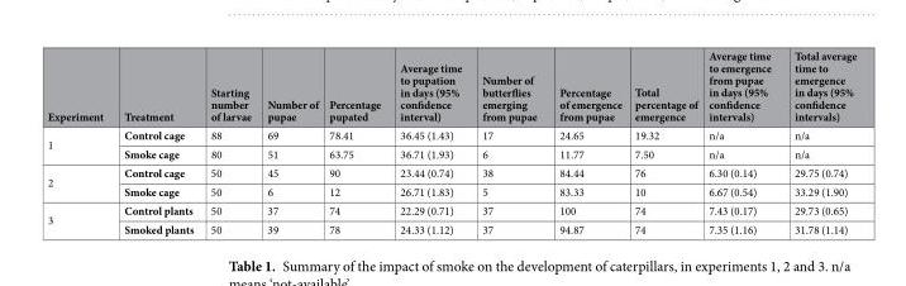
<table><thead><tr><td>Experiment</td><td>Treatment</td><td>Starting number of larvae</td><td>Number of pupae</td><td>Percentage pupated</td><td>Average time to pupation in days (95% confidence interval)</td><td>Number of butterflies emerging from pupae</td><td>Percentage of emergence from pupae</td><td>Total percentage of emergence</td><td>Average time to emergence from pupae in days (95% confidence intervals)</td><td>Total average time to emergence in days (95% confidence intervals)</td></tr></thead><tbody><tr><td rowspan="2">1</td><td>Control cage</td><td>88</td><td>69</td><td>78.41</td><td>36.45 (1.43)</td><td>17</td><td>24.65</td><td>19.32</td><td>n/a</td><td>n/a</td></tr><tr><td>Smoke cage</td><td>80</td><td>51</td><td>63.75</td><td>36.71 (1.93)</td><td>6</td><td>11.77</td><td>7.50</td><td>n/a</td><td>n/a</td></tr><tr><td rowspan="2">2</td><td>Control cage</td><td>50</td><td>45</td><td>90</td><td>23.44 (0.74)</td><td>38</td><td>84.44</td><td>76</td><td>6.30 (0.14)</td><td>29.75 (0.74)</td></tr><tr><td>Smoke cage</td><td>50</td><td>6</td><td>12</td><td>26.71 (1.83)</td><td>5</td><td>83.33</td><td>10</td><td>6.67 (0.54)</td><td>33.29 (1.90)</td></tr><tr><td rowspan="2">3</td><td>Control plants</td><td>50</td><td>37</td><td>74</td><td>22.29 (0.71)</td><td>37</td><td>100</td><td>74</td><td>7.43 (0.17)</td><td>29.73 (0.65)</td></tr><tr><td>Smoked plants</td><td>50</td><td>39</td><td>78</td><td>24.33 (1.12)</td><td>37</td><td>94.87</td><td>74</td><td>7.35 (1.16)</td><td>31.78 (1.14)</td></tr></tbody></table>